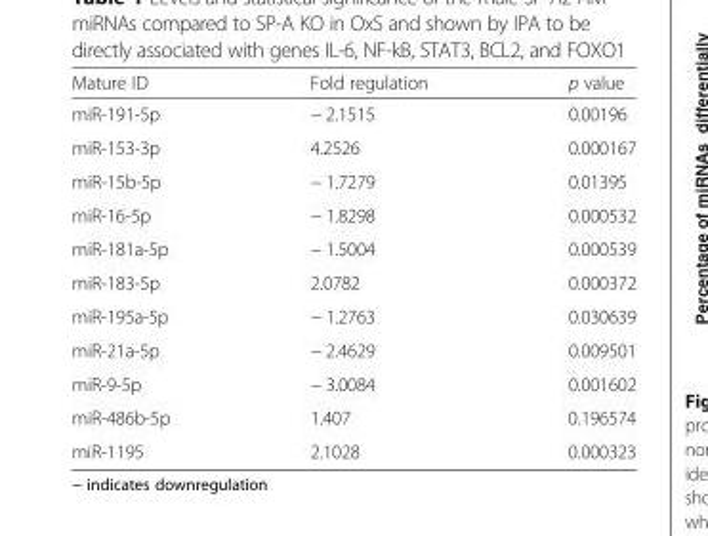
<table><thead><tr><td>Mature ID</td><td>Fold regulation</td><td>p value</td></tr></thead><tbody><tr><td>miR-191-5p</td><td>− 2.1515</td><td>0.00196</td></tr><tr><td>miR-153-3p</td><td>4.2526</td><td>0.000167</td></tr><tr><td>miR-15b-5p</td><td>− 1.7279</td><td>0.01395</td></tr><tr><td>miR-16-5p</td><td>− 1.8298</td><td>0.000532</td></tr><tr><td>miR-181a-5p</td><td>− 1.5004</td><td>0.000539</td></tr><tr><td>miR-183-5p</td><td>2.0782</td><td>0.000372</td></tr><tr><td>miR-195a-5p</td><td>− 1.2763</td><td>0.030639</td></tr><tr><td>miR-21a-5p</td><td>− 2.4629</td><td>0.009501</td></tr><tr><td>miR-9-5p</td><td>− 3.0084</td><td>0.001602</td></tr><tr><td>miR-486b-5p</td><td>1.407</td><td>0.196574</td></tr><tr><td>miR-1195</td><td>2.1028</td><td>0.000323</td></tr></tbody></table>